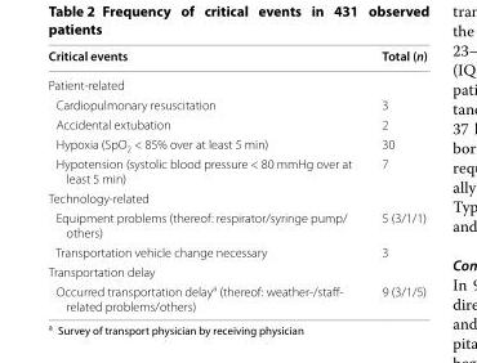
<table><thead><tr><td>Critical events</td><td>Total (n)</td></tr></thead><tbody><tr><td colspan="2">Patient‑related</td></tr><tr><td>Cardiopulmonary resuscitation</td><td>3</td></tr><tr><td>Accidental extubation</td><td>2</td></tr><tr><td>Hypoxia (SpO<sub>2</sub> &lt; 85% over at least 5 min)</td><td>30</td></tr><tr><td>Hypotension (systolic blood pressure &lt; 80 mmHg over at least 5 min)</td><td>7</td></tr><tr><td colspan="2">Technology‑related</td></tr><tr><td>Equipment problems (thereof: respirator/syringe pump/ others)</td><td>5 (3/1/1)</td></tr><tr><td>Transportation vehicle change necessary</td><td>3</td></tr><tr><td colspan="2">Transportation delay</td></tr><tr><td>Occurred transportation delay<sup>a</sup> (thereof: weather‑/staff‑ related problems/others)</td><td>9 (3/1/5)</td></tr></tbody></table>